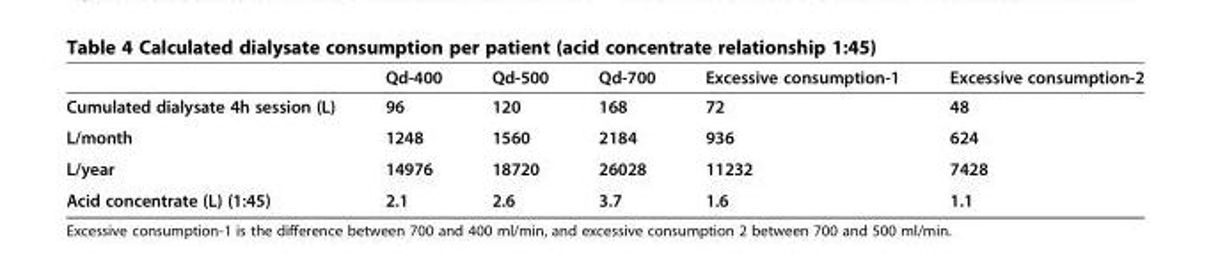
<table><thead><tr><td></td><td>Qd-400</td><td>Qd-500</td><td>Qd-700</td><td>Excessive consumption-1</td><td>Excessive consumption-2</td></tr></thead><tbody><tr><td>Cumulated dialysate 4h session (L)</td><td>96</td><td>120</td><td>168</td><td>72</td><td>48</td></tr><tr><td>L/month</td><td>1248</td><td>1560</td><td>2184</td><td>936</td><td>624</td></tr><tr><td>L/year</td><td>14976</td><td>18720</td><td>26028</td><td>11232</td><td>7428</td></tr><tr><td>Acid concentrate (L) (1:45)</td><td>2.1</td><td>2.6</td><td>3.7</td><td>1.6</td><td>1.1</td></tr></tbody></table>